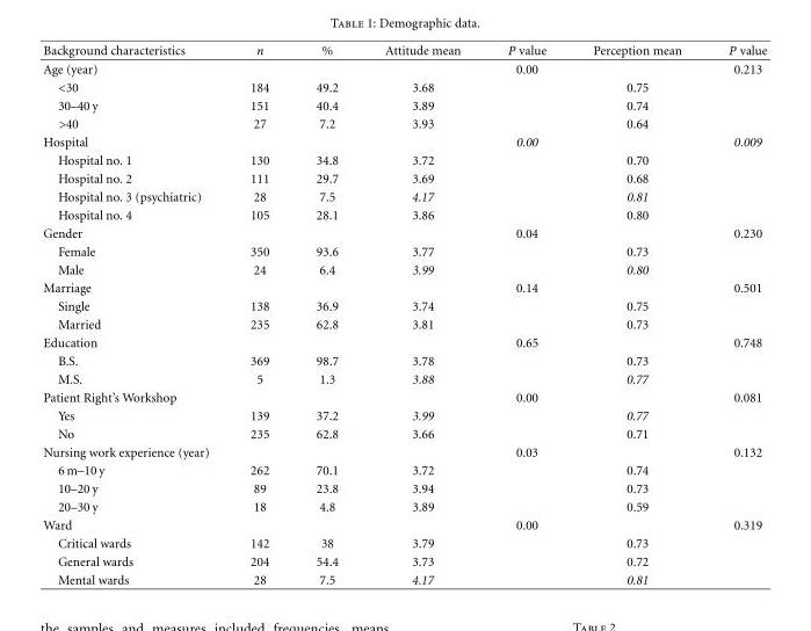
<table><thead><tr><td>Background characteristics</td><td>n</td><td>%</td><td>Attitude mean</td><td>P value</td><td>Perception mean</td><td>P value</td></tr></thead><tbody><tr><td>Age (year)</td><td></td><td></td><td></td><td>0.00</td><td></td><td>0.213</td></tr><tr><td>&lt;30</td><td>184</td><td>49.2</td><td>3.68</td><td></td><td>0.75</td><td></td></tr><tr><td>30–40 y</td><td>151</td><td>40.4</td><td>3.89</td><td></td><td>0.74</td><td></td></tr><tr><td>&gt;40</td><td>27</td><td>7.2</td><td>3.93</td><td></td><td>0.64</td><td></td></tr><tr><td>Hospital</td><td></td><td></td><td></td><td>0.00</td><td></td><td>0.009</td></tr><tr><td>Hospital no. 1</td><td>130</td><td>34.8</td><td>3.72</td><td></td><td>0.70</td><td></td></tr><tr><td>Hospital no. 2</td><td>111</td><td>29.7</td><td>3.69</td><td></td><td>0.68</td><td></td></tr><tr><td>Hospital no. 3 (psychiatric)</td><td>28</td><td>7.5</td><td>4.17</td><td></td><td>0.81</td><td></td></tr><tr><td>Hospital no. 4</td><td>105</td><td>28.1</td><td>3.86</td><td></td><td>0.80</td><td></td></tr><tr><td>Gender</td><td></td><td></td><td></td><td>0.04</td><td></td><td>0.230</td></tr><tr><td>Female</td><td>350</td><td>93.6</td><td>3.77</td><td></td><td>0.73</td><td></td></tr><tr><td>Male</td><td>24</td><td>6.4</td><td>3.99</td><td></td><td>0.80</td><td></td></tr><tr><td>Marriage</td><td></td><td></td><td></td><td>0.14</td><td></td><td>0.501</td></tr><tr><td>Single</td><td>138</td><td>36.9</td><td>3.74</td><td></td><td>0.75</td><td></td></tr><tr><td>Married</td><td>235</td><td>62.8</td><td>3.81</td><td></td><td>0.73</td><td></td></tr><tr><td>Education</td><td></td><td></td><td></td><td>0.65</td><td></td><td>0.748</td></tr><tr><td>B.S.</td><td>369</td><td>98.7</td><td>3.78</td><td></td><td>0.73</td><td></td></tr><tr><td>M.S.</td><td>5</td><td>1.3</td><td>3.88</td><td></td><td>0.77</td><td></td></tr><tr><td>Patient Right’s Workshop</td><td></td><td></td><td></td><td>0.00</td><td></td><td>0.081</td></tr><tr><td>Yes</td><td>139</td><td>37.2</td><td>3.99</td><td></td><td>0.77</td><td></td></tr><tr><td>No</td><td>235</td><td>62.8</td><td>3.66</td><td></td><td>0.71</td><td></td></tr><tr><td>Nursing work experience (year)</td><td></td><td></td><td></td><td>0.03</td><td></td><td>0.132</td></tr><tr><td>6 m–10 y</td><td>262</td><td>70.1</td><td>3.72</td><td></td><td>0.74</td><td></td></tr><tr><td>10–20 y</td><td>89</td><td>23.8</td><td>3.94</td><td></td><td>0.73</td><td></td></tr><tr><td>20–30 y</td><td>18</td><td>4.8</td><td>3.89</td><td></td><td>0.59</td><td></td></tr><tr><td>Ward</td><td></td><td></td><td></td><td>0.00</td><td></td><td>0.319</td></tr><tr><td>Critical wards</td><td>142</td><td>38</td><td>3.79</td><td></td><td>0.73</td><td></td></tr><tr><td>General wards</td><td>204</td><td>54.4</td><td>3.73</td><td></td><td>0.72</td><td></td></tr><tr><td>Mental wards</td><td>28</td><td>7.5</td><td>4.17</td><td></td><td>0.81</td><td></td></tr></tbody></table>